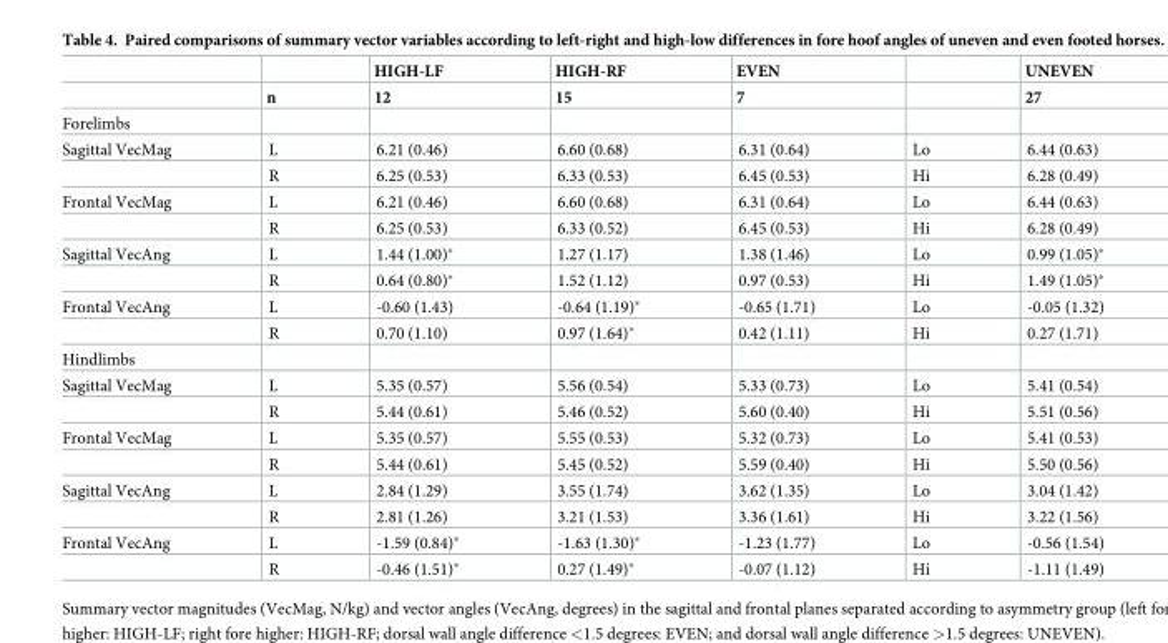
<table><thead><tr><td rowspan="2"></td><td rowspan="2">n</td><td rowspan="2">HIGH-LF 12</td><td rowspan="2">HIGH-RF 15</td><td rowspan="2">EVEN 7</td><td rowspan="2"></td><td rowspan="2">UNEVEN 27</td></tr><tr></tr></thead><tbody><tr><td colspan="7">Forelimbs</td></tr><tr><td rowspan="2">Sagittal VecMag</td><td>L</td><td>6.21 (0.46)</td><td>6.60 (0.68)</td><td>6.31 (0.64)</td><td>Lo</td><td>6.44 (0.63)</td></tr><tr><td>R</td><td>6.25 (0.53)</td><td>6.33 (0.53)</td><td>6.45 (0.53)</td><td>Hi</td><td>6.28 (0.49)</td></tr><tr><td rowspan="2">Frontal VecMag</td><td>L</td><td>6.21 (0.46)</td><td>6.60 (0.68)</td><td>6.31 (0.64)</td><td>Lo</td><td>6.44 (0.63)</td></tr><tr><td>R</td><td>6.25 (0.53)</td><td>6.33 (0.52)</td><td>6.45 (0.53)</td><td>Hi</td><td>6.28 (0.49)</td></tr><tr><td rowspan="2">Sagittal VecAng</td><td>L</td><td>1.44 (1.00)*</td><td>1.27 (1.17)</td><td>1.38 (1.46)</td><td>Lo</td><td>0.99 (1.05)*</td></tr><tr><td>R</td><td>0.64 (0.80)*</td><td>1.52 (1.12)</td><td>0.97 (0.53)</td><td>Hi</td><td>1.49 (1.05)*</td></tr><tr><td rowspan="2">Frontal VecAng</td><td>L</td><td>-0.60 (1.43)</td><td>-0.64 (1.19)*</td><td>-0.65 (1.71)</td><td>Lo</td><td>-0.05 (1.32)</td></tr><tr><td>R</td><td>0.70 (1.10)</td><td>0.97 (1.64)*</td><td>0.42 (1.11)</td><td>Hi</td><td>0.27 (1.71)</td></tr><tr><td colspan="7">Hindlimbs</td></tr><tr><td rowspan="2">Sagittal VecMag</td><td>L</td><td>5.35 (0.57)</td><td>5.56 (0.54)</td><td>5.33 (0.73)</td><td>Lo</td><td>5.41 (0.54)</td></tr><tr><td>R</td><td>5.44 (0.61)</td><td>5.46 (0.52)</td><td>5.60 (0.40)</td><td>Hi</td><td>5.51 (0.56)</td></tr><tr><td rowspan="2">Frontal VecMag</td><td>L</td><td>5.35 (0.57)</td><td>5.55 (0.53)</td><td>5.32 (0.73)</td><td>Lo</td><td>5.41 (0.53)</td></tr><tr><td>R</td><td>5.44 (0.61)</td><td>5.45 (0.52)</td><td>5.59 (0.40)</td><td>Hi</td><td>5.50 (0.56)</td></tr><tr><td rowspan="2">Sagittal VecAng</td><td>L</td><td>2.84 (1.29)</td><td>3.55 (1.74)</td><td>3.62 (1.35)</td><td>Lo</td><td>3.04 (1.42)</td></tr><tr><td>R</td><td>2.81 (1.26)</td><td>3.21 (1.53)</td><td>3.36 (1.61)</td><td>Hi</td><td>3.22 (1.56)</td></tr><tr><td rowspan="2">Frontal VecAng</td><td>L</td><td>-1.59 (0.84)*</td><td>-1.63 (1.30)*</td><td>-1.23 (1.77)</td><td>Lo</td><td>-0.56 (1.54)</td></tr><tr><td>R</td><td>-0.46 (1.51)*</td><td>0.27 (1.49)*</td><td>-0.07 (1.12)</td><td>Hi</td><td>-1.11 (1.49)</td></tr></tbody></table>